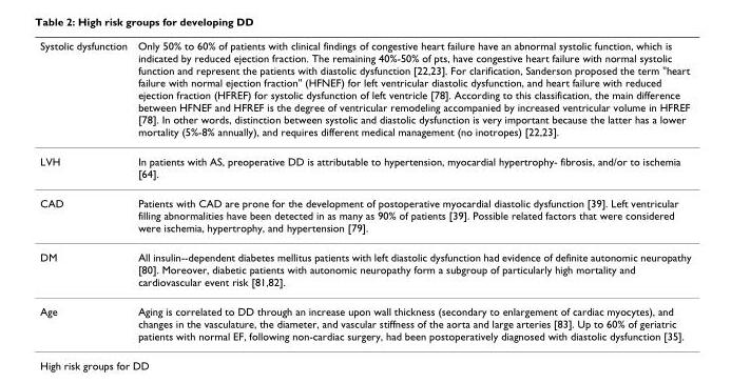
<table><thead><tr><td>Systolic dysfunction</td><td>Only 50% to 60% of patients with clinical findings of congestive heart failure have an abnormal systolic function, which is indicated by reduced ejection fraction. The remaining 40%-50% of pts, have congestive heart failure with normal systolic function and represent the patients with diastolic dysfunction [22,23]. For clarification, Sanderson proposed the term &quot;heart failure with normal ejection fraction&quot; (HFNEF) for left ventricular diastolic dysfunction, and heart failure with reduced ejection fraction (HFREF) for systolic dysfunction of left ventricle [78]. According to this classification, the main difference between HFNEF and HFREF is the degree of ventricular remodeling accompanied by increased ventricular volume in HFREF [78]. In other words, distinction between systolic and diastolic dysfunction is very important because the latter has a lower mortality (5%-8% annually), and requires different medical management (no inotropes) [22,23].</td></tr></thead><tbody><tr><td>LVH</td><td>In patients with AS, preoperative DD is attributable to hypertension, myocardial hypertrophy- fibrosis, and/or to ischemia [64].</td></tr><tr><td>CAD</td><td>Patients with CAD are prone for the development of postoperative myocardial diastolic dysfunction [39]. Left ventricular filling abnormalities have been detected in as many as 90% of patients [39]. Possible related factors that were considered were ischemia, hypertrophy, and hypertension [79].</td></tr><tr><td>DM</td><td>All insulin--dependent diabetes mellitus patients with left diastolic dysfunction had evidence of definite autonomic neuropathy [80]. Moreover, diabetic patients with autonomic neuropathy form a subgroup of particularly high mortality and cardiovascular event risk [81,82].</td></tr><tr><td>Age</td><td>Aging is correlated to DD through an increase upon wall thickness (secondary to enlargement of cardiac myocytes), and changes in the vasculature, the diameter, and vascular stiffness of the aorta and large arteries [83]. Up to 60% of geriatric patients with normal EF, following non-cardiac surgery, had been postoperatively diagnosed with diastolic dysfunction [35].</td></tr></tbody></table>